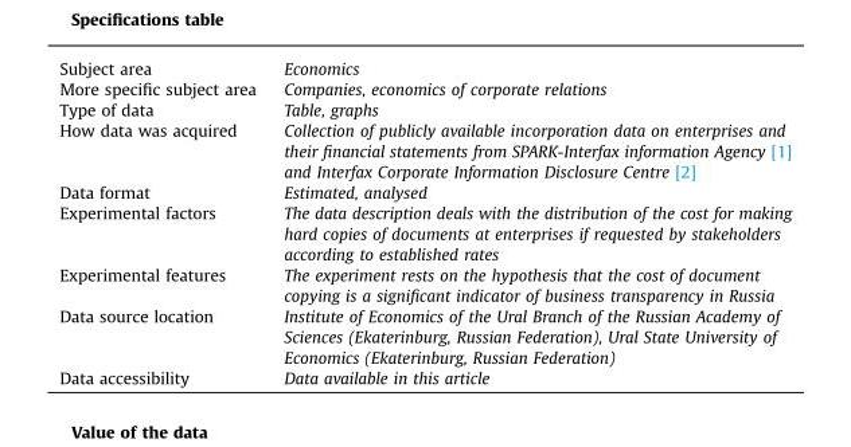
<table><tbody><tr><td>Subject area</td><td>Economics</td></tr><tr><td>More specific subject area</td><td>Companies, economics of corporate relations</td></tr><tr><td>Type of data</td><td>Table, graphs</td></tr><tr><td>How data was acquired</td><td>Collection of publicly available incorporation data on enterprises and their financial statements from SPARK-Interfax information Agency [1] and Interfax Corporate Information Disclosure Centre [2]</td></tr><tr><td>Data format</td><td>Estimated, analysed</td></tr><tr><td>Experimental factors</td><td>The data description deals with the distribution of the cost for making hard copies of documents at enterprises if requested by stakeholders according to established rates</td></tr><tr><td>Experimental features</td><td>The experiment rests on the hypothesis that the cost of document copying is a significant indicator of business transparency in Russia</td></tr><tr><td>Data source location</td><td>Institute of Economics of the Ural Branch of the Russian Academy of Sciences (Ekaterinburg, Russian Federation), Ural State University of Economics (Ekaterinburg, Russian Federation)</td></tr><tr><td>Data accessibility</td><td>Data available in this article</td></tr></tbody></table>